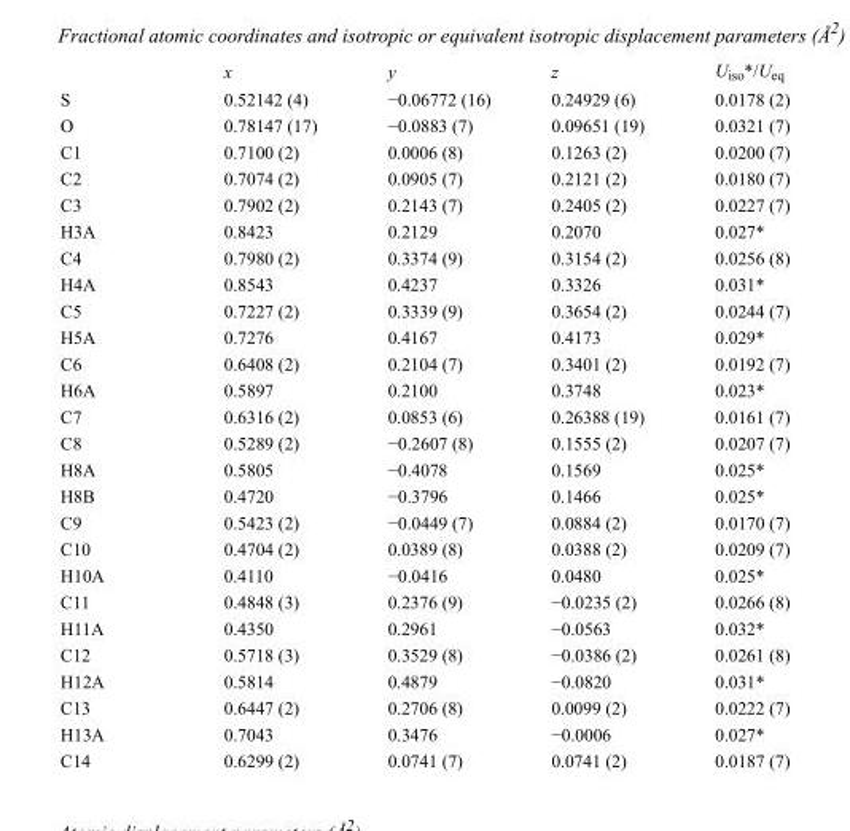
<table><thead><tr><td></td><td>x</td><td>y</td><td>z</td><td>U<sub>iso</sub>*/U<sub>eq</sub></td></tr></thead><tbody><tr><td>S</td><td>0.52142 (4)</td><td>−0.06772 (16)</td><td>0.24929 (6)</td><td>0.0178 (2)</td></tr><tr><td>O</td><td>0.78147 (17)</td><td>−0.0883 (7)</td><td>0.09651 (19)</td><td>0.0321 (7)</td></tr><tr><td>C1</td><td>0.7100 (2)</td><td>0.0006 (8)</td><td>0.1263 (2)</td><td>0.0200 (7)</td></tr><tr><td>C2</td><td>0.7074 (2)</td><td>0.0905 (7)</td><td>0.2121 (2)</td><td>0.0180 (7)</td></tr><tr><td>C3</td><td>0.7902 (2)</td><td>0.2143 (7)</td><td>0.2405 (2)</td><td>0.0227 (7)</td></tr><tr><td>H3A</td><td>0.8423</td><td>0.2129</td><td>0.2070</td><td>0.027*</td></tr><tr><td>C4</td><td>0.7980 (2)</td><td>0.3374 (9)</td><td>0.3154 (2)</td><td>0.0256 (8)</td></tr><tr><td>H4A</td><td>0.8543</td><td>0.4237</td><td>0.3326</td><td>0.031*</td></tr><tr><td>C5</td><td>0.7227 (2)</td><td>0.3339 (9)</td><td>0.3654 (2)</td><td>0.0244 (7)</td></tr><tr><td>H5A</td><td>0.7276</td><td>0.4167</td><td>0.4173</td><td>0.029*</td></tr><tr><td>C6</td><td>0.6408 (2)</td><td>0.2104 (7)</td><td>0.3401 (2)</td><td>0.0192 (7)</td></tr><tr><td>H6A</td><td>0.5897</td><td>0.2100</td><td>0.3748</td><td>0.023*</td></tr><tr><td>C7</td><td>0.6316 (2)</td><td>0.0853 (6)</td><td>0.26388 (19)</td><td>0.0161 (7)</td></tr><tr><td>C8</td><td>0.5289 (2)</td><td>−0.2607 (8)</td><td>0.1555 (2)</td><td>0.0207 (7)</td></tr><tr><td>H8A</td><td>0.5805</td><td>−0.4078</td><td>0.1569</td><td>0.025*</td></tr><tr><td>H8B</td><td>0.4720</td><td>−0.3796</td><td>0.1466</td><td>0.025*</td></tr><tr><td>C9</td><td>0.5423 (2)</td><td>−0.0449 (7)</td><td>0.0884 (2)</td><td>0.0170 (7)</td></tr><tr><td>C10</td><td>0.4704 (2)</td><td>0.0389 (8)</td><td>0.0388 (2)</td><td>0.0209 (7)</td></tr><tr><td>H10A</td><td>0.4110</td><td>−0.0416</td><td>0.0480</td><td>0.025*</td></tr><tr><td>C11</td><td>0.4848 (3)</td><td>0.2376 (9)</td><td>−0.0235 (2)</td><td>0.0266 (8)</td></tr><tr><td>H11A</td><td>0.4350</td><td>0.2961</td><td>−0.0563</td><td>0.032*</td></tr><tr><td>C12</td><td>0.5718 (3)</td><td>0.3529 (8)</td><td>−0.0386 (2)</td><td>0.0261 (8)</td></tr><tr><td>H12A</td><td>0.5814</td><td>0.4879</td><td>−0.0820</td><td>0.031*</td></tr><tr><td>C13</td><td>0.6447 (2)</td><td>0.2706 (8)</td><td>0.0099 (2)</td><td>0.0222 (7)</td></tr><tr><td>H13A</td><td>0.7043</td><td>0.3476</td><td>−0.0006</td><td>0.027*</td></tr><tr><td>C14</td><td>0.6299 (2)</td><td>0.0741 (7)</td><td>0.0741 (2)</td><td>0.0187 (7)</td></tr></tbody></table>